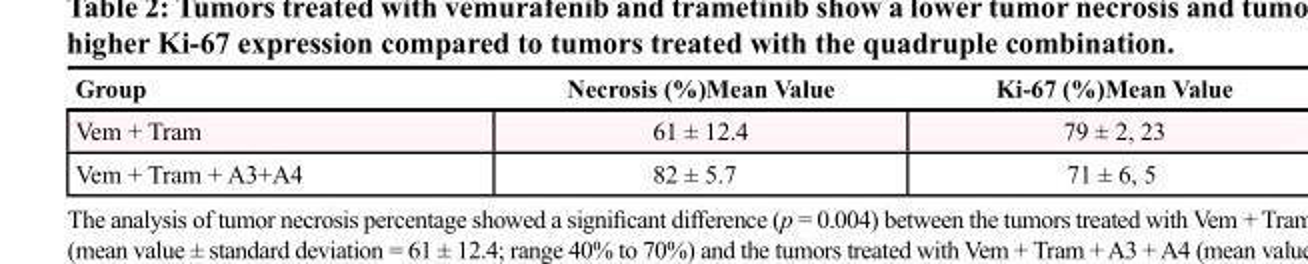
<table><thead><tr><td>Group</td><td>Necrosis (%)Mean Value</td><td>Ki-67 (%)Mean Value</td></tr></thead><tbody><tr><td>Vem + Tram</td><td>61 ± 12.4</td><td>79 ± 2, 23</td></tr><tr><td>Vem + Tram + A3+A4</td><td>82 ± 5.7</td><td>71 ± 6, 5</td></tr></tbody></table>